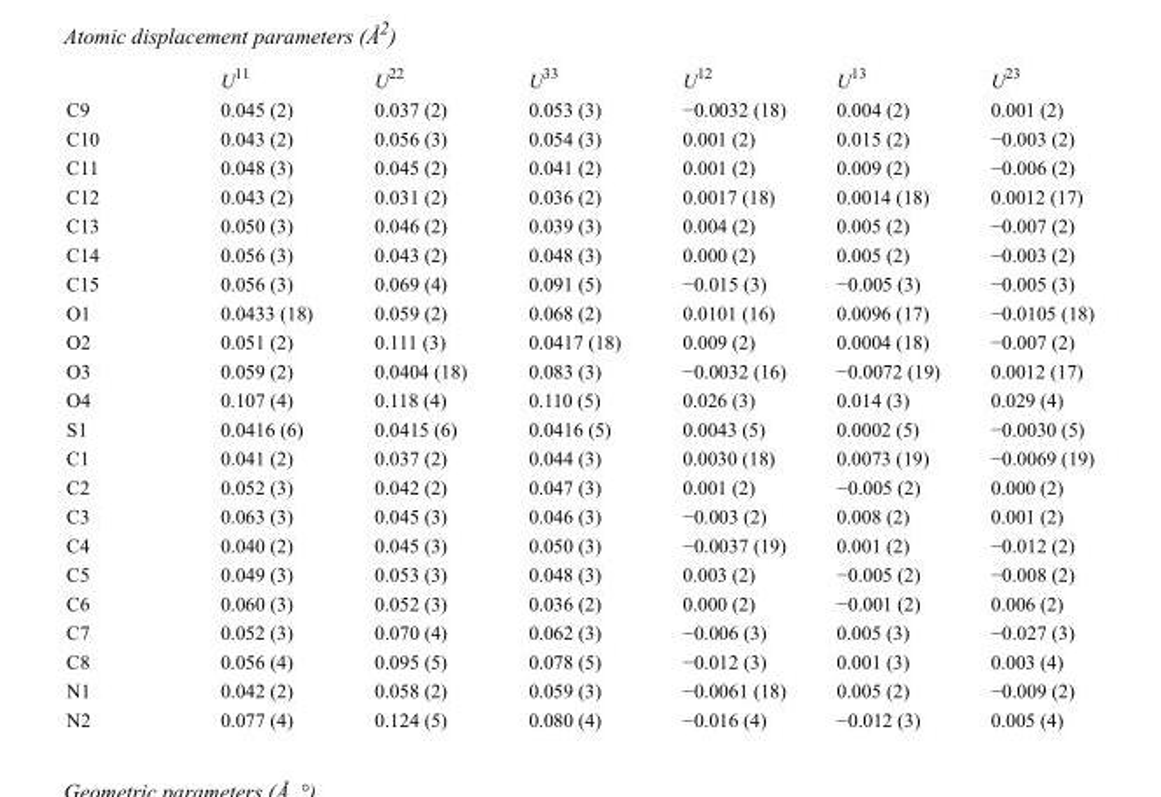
<table><thead><tr><td></td><td>U<sup>11</sup></td><td>U<sup>22</sup></td><td>U<sup>33</sup></td><td>U<sup>12</sup></td><td>U<sup>13</sup></td><td>U<sup>23</sup></td></tr></thead><tbody><tr><td>C9</td><td>0.045 (2)</td><td>0.037 (2)</td><td>0.053 (3)</td><td>−0.0032 (18)</td><td>0.004 (2)</td><td>0.001 (2)</td></tr><tr><td>C10</td><td>0.043 (2)</td><td>0.056 (3)</td><td>0.054 (3)</td><td>0.001 (2)</td><td>0.015 (2)</td><td>−0.003 (2)</td></tr><tr><td>C11</td><td>0.048 (3)</td><td>0.045 (2)</td><td>0.041 (2)</td><td>0.001 (2)</td><td>0.009 (2)</td><td>−0.006 (2)</td></tr><tr><td>C12</td><td>0.043 (2)</td><td>0.031 (2)</td><td>0.036 (2)</td><td>0.0017 (18)</td><td>0.0014 (18)</td><td>0.0012 (17)</td></tr><tr><td>C13</td><td>0.050 (3)</td><td>0.046 (2)</td><td>0.039 (3)</td><td>0.004 (2)</td><td>0.005 (2)</td><td>−0.007 (2)</td></tr><tr><td>C14</td><td>0.056 (3)</td><td>0.043 (2)</td><td>0.048 (3)</td><td>0.000 (2)</td><td>0.005 (2)</td><td>−0.003 (2)</td></tr><tr><td>C15</td><td>0.056 (3)</td><td>0.069 (4)</td><td>0.091 (5)</td><td>−0.015 (3)</td><td>−0.005 (3)</td><td>−0.005 (3)</td></tr><tr><td>O1</td><td>0.0433 (18)</td><td>0.059 (2)</td><td>0.068 (2)</td><td>0.0101 (16)</td><td>0.0096 (17)</td><td>−0.0105 (18)</td></tr><tr><td>O2</td><td>0.051 (2)</td><td>0.111 (3)</td><td>0.0417 (18)</td><td>0.009 (2)</td><td>0.0004 (18)</td><td>−0.007 (2)</td></tr><tr><td>O3</td><td>0.059 (2)</td><td>0.0404 (18)</td><td>0.083 (3)</td><td>−0.0032 (16)</td><td>−0.0072 (19)</td><td>0.0012 (17)</td></tr><tr><td>O4</td><td>0.107 (4)</td><td>0.118 (4)</td><td>0.110 (5)</td><td>0.026 (3)</td><td>0.014 (3)</td><td>0.029 (4)</td></tr><tr><td>S1</td><td>0.0416 (6)</td><td>0.0415 (6)</td><td>0.0416 (5)</td><td>0.0043 (5)</td><td>0.0002 (5)</td><td>−0.0030 (5)</td></tr><tr><td>C1</td><td>0.041 (2)</td><td>0.037 (2)</td><td>0.044 (3)</td><td>0.0030 (18)</td><td>0.0073 (19)</td><td>−0.0069 (19)</td></tr><tr><td>C2</td><td>0.052 (3)</td><td>0.042 (2)</td><td>0.047 (3)</td><td>0.001 (2)</td><td>−0.005 (2)</td><td>0.000 (2)</td></tr><tr><td>C3</td><td>0.063 (3)</td><td>0.045 (3)</td><td>0.046 (3)</td><td>−0.003 (2)</td><td>0.008 (2)</td><td>0.001 (2)</td></tr><tr><td>C4</td><td>0.040 (2)</td><td>0.045 (3)</td><td>0.050 (3)</td><td>−0.0037 (19)</td><td>0.001 (2)</td><td>−0.012 (2)</td></tr><tr><td>C5</td><td>0.049 (3)</td><td>0.053 (3)</td><td>0.048 (3)</td><td>0.003 (2)</td><td>−0.005 (2)</td><td>−0.008 (2)</td></tr><tr><td>C6</td><td>0.060 (3)</td><td>0.052 (3)</td><td>0.036 (2)</td><td>0.000 (2)</td><td>−0.001 (2)</td><td>0.006 (2)</td></tr><tr><td>C7</td><td>0.052 (3)</td><td>0.070 (4)</td><td>0.062 (3)</td><td>−0.006 (3)</td><td>0.005 (3)</td><td>−0.027 (3)</td></tr><tr><td>C8</td><td>0.056 (4)</td><td>0.095 (5)</td><td>0.078 (5)</td><td>−0.012 (3)</td><td>0.001 (3)</td><td>0.003 (4)</td></tr><tr><td>N1</td><td>0.042 (2)</td><td>0.058 (2)</td><td>0.059 (3)</td><td>−0.0061 (18)</td><td>0.005 (2)</td><td>−0.009 (2)</td></tr><tr><td>N2</td><td>0.077 (4)</td><td>0.124 (5)</td><td>0.080 (4)</td><td>−0.016 (4)</td><td>−0.012 (3)</td><td>0.005 (4)</td></tr></tbody></table>